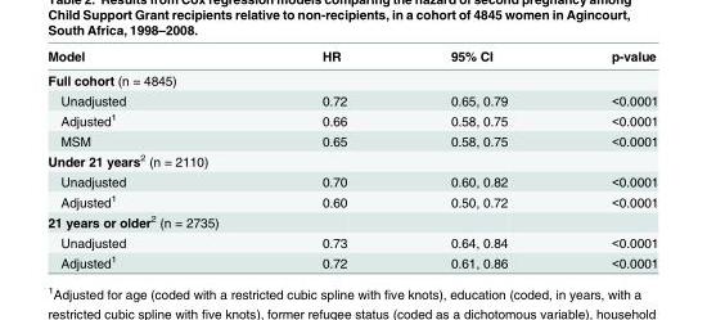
<table><thead><tr><td>Model</td><td>HR</td><td>95% CI</td><td>p-value</td></tr></thead><tbody><tr><td colspan="4">Full cohort (n = 4845)</td></tr><tr><td>Unadjusted</td><td>0.72</td><td>0.65, 0.79</td><td>&lt;0.0001</td></tr><tr><td>Adjusted<sup>1</sup></td><td>0.66</td><td>0.58, 0.75</td><td>&lt;0.0001</td></tr><tr><td>MSM</td><td>0.65</td><td>0.58, 0.75</td><td>&lt;0.0001</td></tr><tr><td colspan="4">Under 21 years<sup>2</sup> (n = 2110)</td></tr><tr><td>Unadjusted</td><td>0.70</td><td>0.60, 0.82</td><td>&lt;0.0001</td></tr><tr><td>Adjusted<sup>1</sup></td><td>0.60</td><td>0.50, 0.72</td><td>&lt;0.0001</td></tr><tr><td colspan="4">21 years or older<sup>2</sup> (n = 2735)</td></tr><tr><td>Unadjusted</td><td>0.73</td><td>0.64, 0.84</td><td>&lt;0.0001</td></tr><tr><td>Adjusted<sup>1</sup></td><td>0.72</td><td>0.61, 0.86</td><td>&lt;0.0001</td></tr></tbody></table>